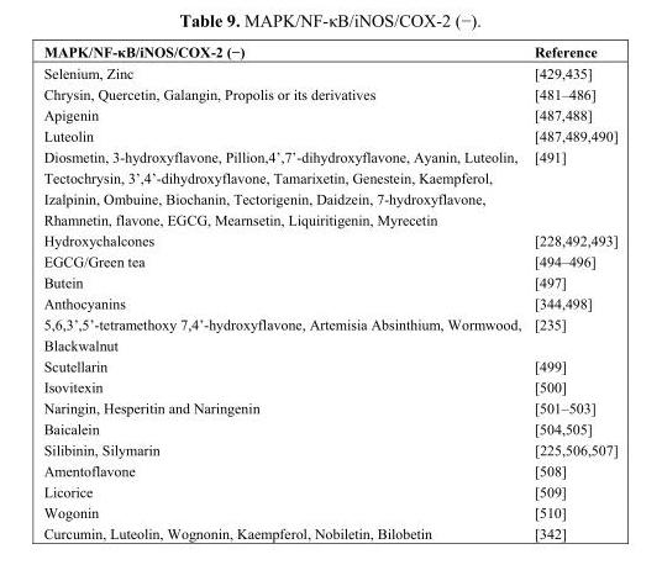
<table><thead><tr><td>MAPK/NF-κB/iNOS/COX-2 (−)</td><td>Reference</td></tr></thead><tbody><tr><td>Selenium, Zinc</td><td>[429,435]</td></tr><tr><td>Chrysin, Quercetin, Galangin, Propolis or its derivatives</td><td>[481–486]</td></tr><tr><td>Apigenin</td><td>[487,488]</td></tr><tr><td>Luteolin</td><td>[487,489,490]</td></tr><tr><td>Diosmetin, 3-hydroxyflavone, Pillion,4’,7’-dihydroxyflavone, Ayanin, Luteolin, Tectochrysin, 3’,4’-dihydroxyflavone, Tamarixetin, Genestein, Kaempferol, Izalpinin, Ombuine, Biochanin, Tectorigenin, Daidzein, 7-hydroxyflavone, Rhamnetin, flavone, EGCG, Mearnsetin, Liquiritigenin, Myrecetin</td><td>[491]</td></tr><tr><td>Hydroxychalcones</td><td>[228,492,493]</td></tr><tr><td>EGCG/Green tea</td><td>[494–496]</td></tr><tr><td>Butein</td><td>[497]</td></tr><tr><td>Anthocyanins</td><td>[344,498]</td></tr><tr><td>5,6,3’,5’-tetramethoxy 7,4’-hydroxyflavone, Artemisia Absinthium, Wormwood, Blackwalnut</td><td>[235]</td></tr><tr><td>Scutellarin</td><td>[499]</td></tr><tr><td>Isovitexin</td><td>[500]</td></tr><tr><td>Naringin, Hesperitin and Naringenin</td><td>[501–503]</td></tr><tr><td>Baicalein</td><td>[504,505]</td></tr><tr><td>Silibinin, Silymarin</td><td>[225,506,507]</td></tr><tr><td>Amentoflavone</td><td>[508]</td></tr><tr><td>Licorice</td><td>[509]</td></tr><tr><td>Wogonin</td><td>[510]</td></tr><tr><td>Curcumin, Luteolin, Wognonin, Kaempferol, Nobiletin, Bilobetin</td><td>[342]</td></tr></tbody></table>